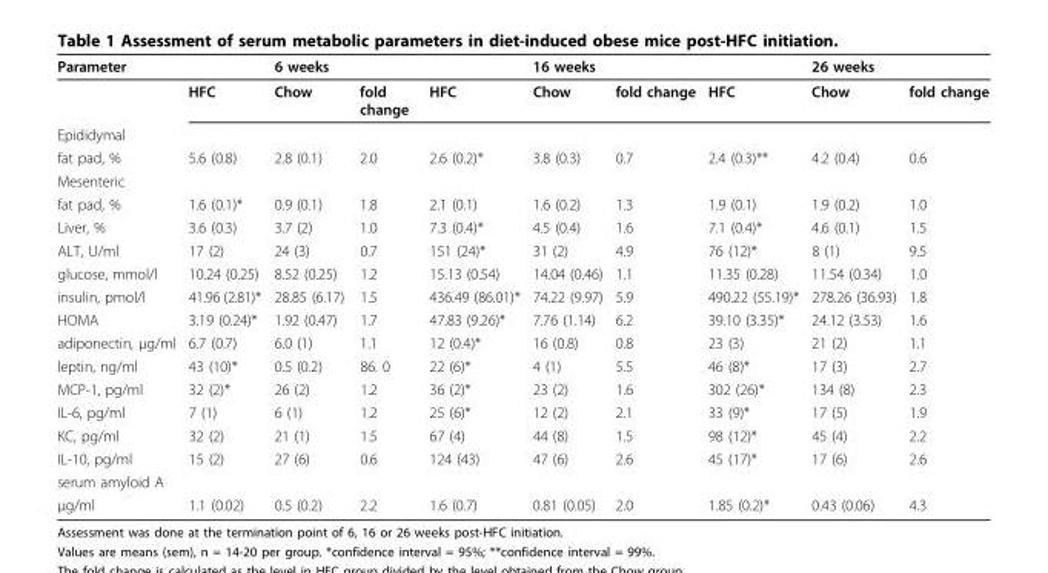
<table><thead><tr><td>Parameter</td><td></td><td>6 weeks</td><td></td><td></td><td>16 weeks</td><td></td><td></td><td>26 weeks</td><td></td></tr></thead><tbody><tr><td></td><td>HFC</td><td>Chow</td><td>fold change</td><td>HFC</td><td>Chow</td><td>fold change</td><td>HFC</td><td>Chow</td><td>fold change</td></tr><tr><td colspan="10">Epididymal</td></tr><tr><td>fat pad, %</td><td>5.6 (0.8)</td><td>2.8 (0.1)</td><td>2.0</td><td>2.6 (0.2)*</td><td>3.8 (0.3)</td><td>0.7</td><td>2.4 (0.3)**</td><td>4.2 (0.4)</td><td>0.6</td></tr><tr><td colspan="10">Mesenteric</td></tr><tr><td>fat pad, %</td><td>1.6 (0.1)*</td><td>0.9 (0.1)</td><td>1.8</td><td>2.1 (0.1)</td><td>1.6 (0.2)</td><td>1.3</td><td>1.9 (0.1)</td><td>1.9 (0.2)</td><td>1.0</td></tr><tr><td>Liver, %</td><td>3.6 (0.3)</td><td>3.7 (2)</td><td>1.0</td><td>7.3 (0.4)*</td><td>4.5 (0.4)</td><td>1.6</td><td>7.1 (0.4)*</td><td>4.6 (0.1)</td><td>1.5</td></tr><tr><td>ALT, U/ml</td><td>17 (2)</td><td>24 (3)</td><td>0.7</td><td>151 (24)*</td><td>31 (2)</td><td>4.9</td><td>76 (12)*</td><td>8 (1)</td><td>9.5</td></tr><tr><td>glucose, mmol/l</td><td>10.24 (0.25)</td><td>8.52 (0.25)</td><td>1.2</td><td>15.13 (0.54)</td><td>14.04 (0.46)</td><td>1.1</td><td>11.35 (0.28)</td><td>11.54 (0.34)</td><td>1.0</td></tr><tr><td>insulin, pmol/l</td><td>41.96 (2.81)*</td><td>28.85 (6.17)</td><td>1.5</td><td>436.49 (86.01)*</td><td>74.22 (9.97)</td><td>5.9</td><td>490.22 (55.19)*</td><td>278.26 (36.93)</td><td>1.8</td></tr><tr><td>HOMA</td><td>3.19 (0.24)*</td><td>1.92 (0.47)</td><td>1.7</td><td>47.83 (9.26)*</td><td>7.76 (1.14)</td><td>6.2</td><td>39.10 (3.35)*</td><td>24.12 (3.53)</td><td>1.6</td></tr><tr><td>adiponectin, μg/ml</td><td>6.7 (0.7)</td><td>6.0 (1)</td><td>1.1</td><td>12 (0.4)*</td><td>16 (0.8)</td><td>0.8</td><td>23 (3)</td><td>21 (2)</td><td>1.1</td></tr><tr><td>leptin, ng/ml</td><td>43 (10)*</td><td>0.5 (0.2)</td><td>86. 0</td><td>22 (6)*</td><td>4 (1)</td><td>5.5</td><td>46 (8)*</td><td>17 (3)</td><td>2.7</td></tr><tr><td>MCP-1, pg/ml</td><td>32 (2)*</td><td>26 (2)</td><td>1.2</td><td>36 (2)*</td><td>23 (2)</td><td>1.6</td><td>302 (26)*</td><td>134 (8)</td><td>2.3</td></tr><tr><td>IL-6, pg/ml</td><td>7 (1)</td><td>6 (1)</td><td>1.2</td><td>25 (6)*</td><td>12 (2)</td><td>2.1</td><td>33 (9)*</td><td>17 (5)</td><td>1.9</td></tr><tr><td>KC, pg/ml</td><td>32 (2)</td><td>21 (1)</td><td>1.5</td><td>67 (4)</td><td>44 (8)</td><td>1.5</td><td>98 (12)*</td><td>45 (4)</td><td>2.2</td></tr><tr><td>IL-10, pg/ml</td><td>15 (2)</td><td>27 (6)</td><td>0.6</td><td>124 (43)</td><td>47 (6)</td><td>2.6</td><td>45 (17)*</td><td>17 (6)</td><td>2.6</td></tr><tr><td colspan="10">serum amyloid A</td></tr><tr><td>μg/ml</td><td>1.1 (0.02)</td><td>0.5 (0.2)</td><td>2.2</td><td>1.6 (0.7)</td><td>0.81 (0.05)</td><td>2.0</td><td>1.85 (0.2)*</td><td>0.43 (0.06)</td><td>4.3</td></tr></tbody></table>